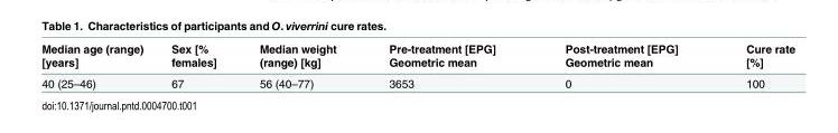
<table><thead><tr><td>Median age (range) [years]</td><td>Sex [% females]</td><td>Median weight (range) [kg]</td><td>Pre-treatment [EPG] Geometric mean</td><td>Post-treatment [EPG] Geometric mean</td><td>Cure rate [%]</td></tr></thead><tbody><tr><td>40 (25–46)</td><td>67</td><td>56 (40–77)</td><td>3653</td><td>0</td><td>100</td></tr></tbody></table>